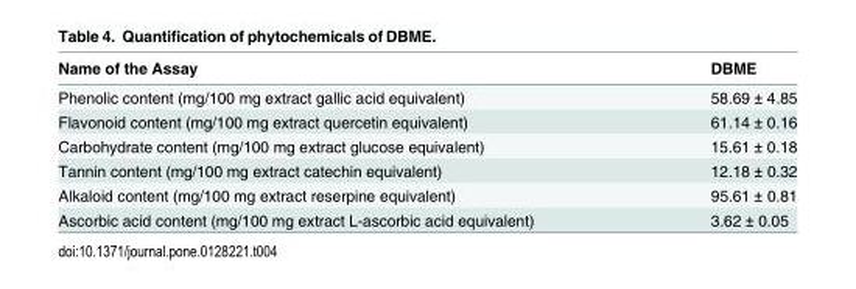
<table><thead><tr><td>Name of the Assay</td><td>DBME</td></tr></thead><tbody><tr><td>Phenolic content (mg/100 mg extract gallic acid equivalent)</td><td>58.69 ± 4.85</td></tr><tr><td>Flavonoid content (mg/100 mg extract quercetin equivalent)</td><td>61.14 ± 0.16</td></tr><tr><td>Carbohydrate content (mg/100 mg extract glucose equivalent)</td><td>15.61 ± 0.18</td></tr><tr><td>Tannin content (mg/100 mg extract catechin equivalent)</td><td>12.18 ± 0.32</td></tr><tr><td>Alkaloid content (mg/100 mg extract reserpine equivalent)</td><td>95.61 ± 0.81</td></tr><tr><td>Ascorbic acid content (mg/100 mg extract L-ascorbic acid equivalent)</td><td>3.62 ± 0.05</td></tr></tbody></table>